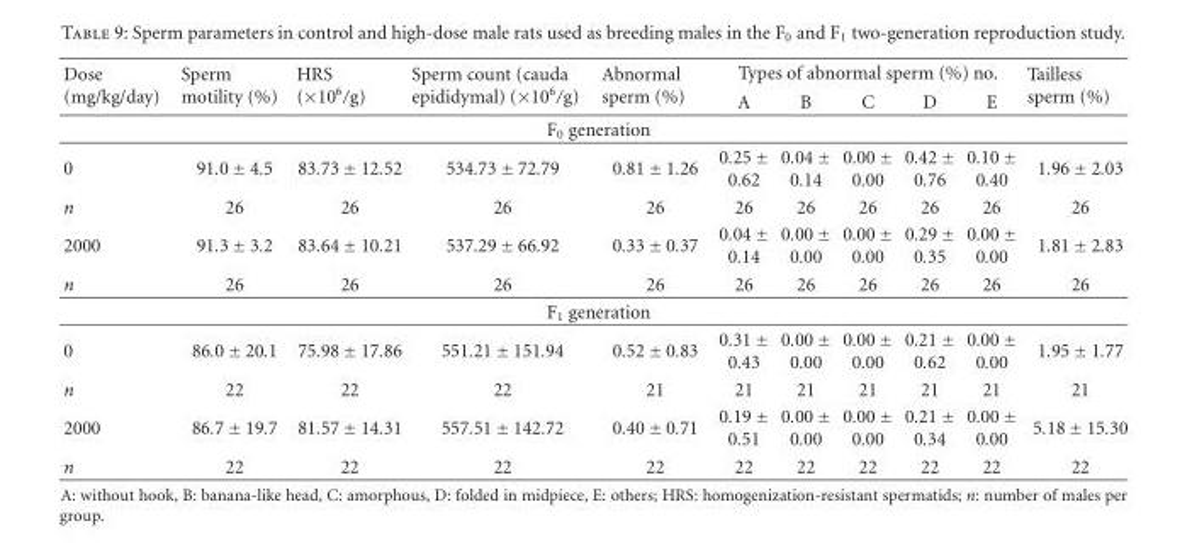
<table><thead><tr><td rowspan="2">Dose (mg/kg/day)</td><td rowspan="2">Sperm motility (%)</td><td rowspan="2">HRS (×10<sup>6</sup>/g)</td><td rowspan="2">Sperm count (cauda epididymal) (×10<sup>6</sup>/g)</td><td rowspan="2">Abnormal sperm (%)</td><td colspan="5">Types of abnormal sperm (%) no.</td><td rowspan="2">Tailless sperm (%)</td></tr><tr><td>A</td><td>B</td><td>C</td><td>D</td><td>E</td></tr></thead><tbody><tr><td colspan="11">F<sub>0</sub> generation</td></tr><tr><td>0</td><td>91.0 ± 4.5</td><td>83.73 ± 12.52</td><td>534.73 ± 72.79</td><td>0.81 ± 1.26</td><td>0.25 ± 0.62</td><td>0.04 ± 0.14</td><td>0.00 ± 0.00</td><td>0.42 ± 0.76</td><td>0.10 ± 0.40</td><td>1.96 ± 2.03</td></tr><tr><td>n</td><td>26</td><td>26</td><td>26</td><td>26</td><td>26</td><td>26</td><td>26</td><td>26</td><td>26</td><td>26</td></tr><tr><td>2000</td><td>91.3 ± 3.2</td><td>83.64 ± 10.21</td><td>537.29 ± 66.92</td><td>0.33 ± 0.37</td><td>0.04 ± 0.14</td><td>0.00 ± 0.00</td><td>0.00 ± 0.00</td><td>0.29 ± 0.35</td><td>0.00 ± 0.00</td><td>1.81 ± 2.83</td></tr><tr><td>n</td><td>26</td><td>26</td><td>26</td><td>26</td><td>26</td><td>26</td><td>26</td><td>26</td><td>26</td><td>26</td></tr><tr><td colspan="11">F<sub>1</sub> generation</td></tr><tr><td>0</td><td>86.0 ± 20.1</td><td>75.98 ± 17.86</td><td>551.21 ± 151.94</td><td>0.52 ± 0.83</td><td>0.31 ± 0.43</td><td>0.00 ± 0.00</td><td>0.00 ± 0.00</td><td>0.21 ± 0.62</td><td>0.00 ± 0.00</td><td>1.95 ± 1.77</td></tr><tr><td>n</td><td>22</td><td>22</td><td>22</td><td>21</td><td>21</td><td>21</td><td>21</td><td>21</td><td>21</td><td>21</td></tr><tr><td>2000</td><td>86.7 ± 19.7</td><td>81.57 ± 14.31</td><td>557.51 ± 142.72</td><td>0.40 ± 0.71</td><td>0.19 ± 0.51</td><td>0.00 ± 0.00</td><td>0.00 ± 0.00</td><td>0.21 ± 0.34</td><td>0.00 ± 0.00</td><td>5.18 ± 15.30</td></tr><tr><td>n</td><td>22</td><td>22</td><td>22</td><td>22</td><td>22</td><td>22</td><td>22</td><td>22</td><td>22</td><td>22</td></tr></tbody></table>